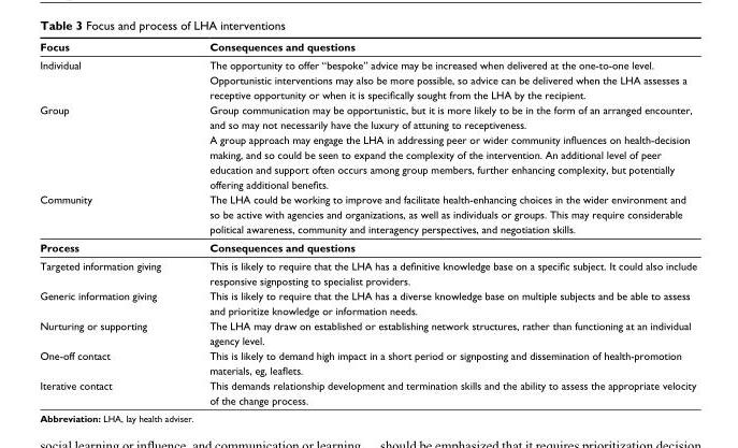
<table><thead><tr><td>Focus</td><td>Consequences and questions</td></tr></thead><tbody><tr><td>Individual</td><td>The opportunity to offer “bespoke” advice may be increased when delivered at the one-to-one level. Opportunistic interventions may also be more possible, so advice can be delivered when the LHA assesses a receptive opportunity or when it is specifically sought from the LHA by the recipient.</td></tr><tr><td>Group</td><td>Group communication may be opportunistic, but it is more likely to be in the form of an arranged encounter, and so may not necessarily have the luxury of attuning to receptiveness. A group approach may engage the LHA in addressing peer or wider community influences on health-decision making, and so could be seen to expand the complexity of the intervention. An additional level of peer education and support often occurs among group members, further enhancing complexity, but potentially offering additional benefits.</td></tr><tr><td>Community</td><td>The LHA could be working to improve and facilitate health-enhancing choices in the wider environment and so be active with agencies and organizations, as well as individuals or groups. This may require considerable political awareness, community and interagency perspectives, and negotiation skills.</td></tr><tr><td>Process</td><td>Consequences and questions</td></tr><tr><td>Targeted information giving</td><td>This is likely to require that the LHA has a definitive knowledge base on a specific subject. It could also include responsive signposting to specialist providers.</td></tr><tr><td>Generic information giving</td><td>This is likely to require that the LHA has a diverse knowledge base on multiple subjects and be able to assess and prioritize knowledge or information needs.</td></tr><tr><td>Nurturing or supporting</td><td>The LHA may draw on established or establishing network structures, rather than functioning at an individual agency level.</td></tr><tr><td>One-off contact</td><td>This is likely to demand high impact in a short period or signposting and dissemination of health-promotion materials, eg, leaflets.</td></tr><tr><td>Iterative contact</td><td>This demands relationship development and termination skills and the ability to assess the appropriate velocity of the change process.</td></tr></tbody></table>